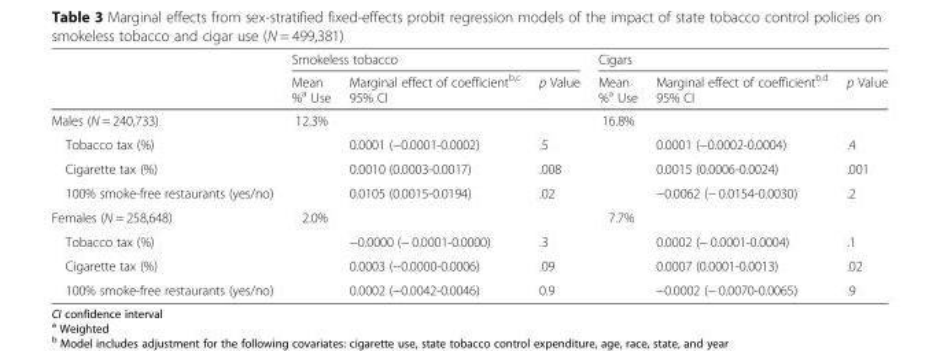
<table><thead><tr><td rowspan="2"></td><td colspan="3">Smokeless tobacco</td><td colspan="3">Cigars</td></tr><tr><td>Mean %<sup>a</sup> Use</td><td>Marginal effect of coefficient<sup>b,c</sup> 95% CI</td><td>p Value</td><td>Mean %<sup>a</sup> Use</td><td>Marginal effect of coefficient<sup>b,d</sup> 95% CI</td><td>p Value</td></tr></thead><tbody><tr><td>Males (N = 240,733)</td><td>12.3%</td><td></td><td></td><td>16.8%</td><td></td><td></td></tr><tr><td>Tobacco tax (%)</td><td></td><td>0.0001 (−0.0001-0.0002)</td><td>.5</td><td></td><td>0.0001 (−0.0002-0.0004)</td><td>.4</td></tr><tr><td>Cigarette tax (%)</td><td></td><td>0.0010 (0.0003-0.0017)</td><td>.008</td><td></td><td>0.0015 (0.0006-0.0024)</td><td>.001</td></tr><tr><td>100% smoke-free restaurants (yes/no)</td><td></td><td>0.0105 (0.0015-0.0194)</td><td>.02</td><td></td><td>−0.0062 (− 0.0154-0.0030)</td><td>.2</td></tr><tr><td>Females (N = 258,648)</td><td>2.0%</td><td></td><td></td><td>7.7%</td><td></td><td></td></tr><tr><td>Tobacco tax (%)</td><td></td><td>−0.0000 (− 0.0001-0.0000)</td><td>.3</td><td></td><td>0.0002 (− 0.0001-0.0004)</td><td>.1</td></tr><tr><td>Cigarette tax (%)</td><td></td><td>0.0003 (−0.0000-0.0006)</td><td>.09</td><td></td><td>0.0007 (0.0001-0.0013)</td><td>.02</td></tr><tr><td>100% smoke-free restaurants (yes/no)</td><td></td><td>0.0002 (−0.0042-0.0046)</td><td>0.9</td><td></td><td>−0.0002 (− 0.0070-0.0065)</td><td>.9</td></tr></tbody></table>